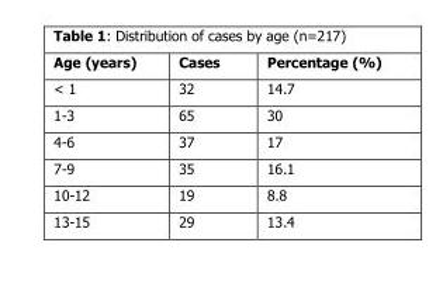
<table><thead><tr><td>Age (years)</td><td>Cases</td><td>Percentage (%)</td></tr></thead><tbody><tr><td>&lt; 1</td><td>32</td><td>14.7</td></tr><tr><td>1-3</td><td>65</td><td>30</td></tr><tr><td>4-6</td><td>37</td><td>17</td></tr><tr><td>7-9</td><td>35</td><td>16.1</td></tr><tr><td>10-12</td><td>19</td><td>8.8</td></tr><tr><td>13-15</td><td>29</td><td>13.4</td></tr></tbody></table>